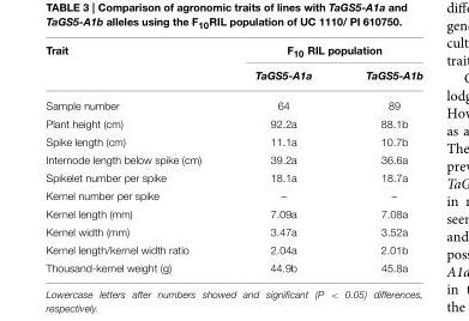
<table><thead><tr><td rowspan="2">Trait</td><td colspan="2">F<sub>10</sub> RIL population</td></tr><tr><td>TaGS5-A1a</td><td>TaGS5-A1b</td></tr></thead><tbody><tr><td>Sample number</td><td>64</td><td>89</td></tr><tr><td>Plant height (cm)</td><td>92.2a</td><td>88.1b</td></tr><tr><td>Spike length (cm)</td><td>11.1a</td><td>10.7b</td></tr><tr><td>Internode length below spike (cm)</td><td>39.2a</td><td>36.6a</td></tr><tr><td>Spikelet number per spike</td><td>18.1a</td><td>18.7a</td></tr><tr><td>Kernel number per spike</td><td>–</td><td>–</td></tr><tr><td>Kernel length (mm)</td><td>7.09a</td><td>7.08a</td></tr><tr><td>Kernel width (mm)</td><td>3.47a</td><td>3.52a</td></tr><tr><td>Kernel length/kernel width ratio</td><td>2.04a</td><td>2.01b</td></tr><tr><td>Thousand-kernel weight (g)</td><td>44.9b</td><td>45.8a</td></tr></tbody></table>